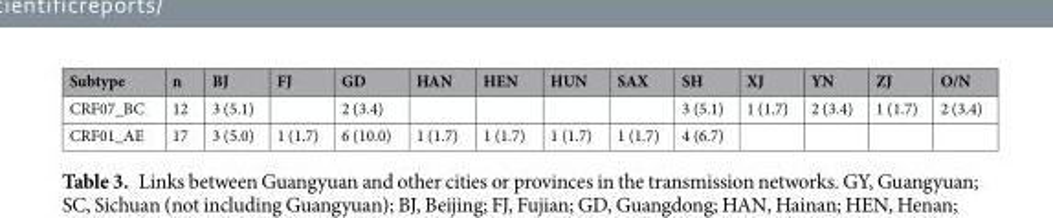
<table><thead><tr><td>Subtype</td><td>n</td><td>BJ</td><td>FJ</td><td>GD</td><td>HAN</td><td>HEN</td><td>HUN</td><td>SAX</td><td>SH</td><td>XJ</td><td>YN</td><td>ZJ</td><td>O/N</td></tr></thead><tbody><tr><td>CRF07_BC</td><td>12</td><td>3 (5.1)</td><td></td><td>2 (3.4)</td><td></td><td></td><td></td><td></td><td>3 (5.1)</td><td>1 (1.7)</td><td>2 (3.4)</td><td>1 (1.7)</td><td>2 (3.4)</td></tr><tr><td>CRF01_AE</td><td>17</td><td>3 (5.0)</td><td>1 (1.7)</td><td>6 (10.0)</td><td>1 (1.7)</td><td>1 (1.7)</td><td>1 (1.7)</td><td>1 (1.7)</td><td>4 (6.7)</td><td></td><td></td><td></td><td></td></tr></tbody></table>